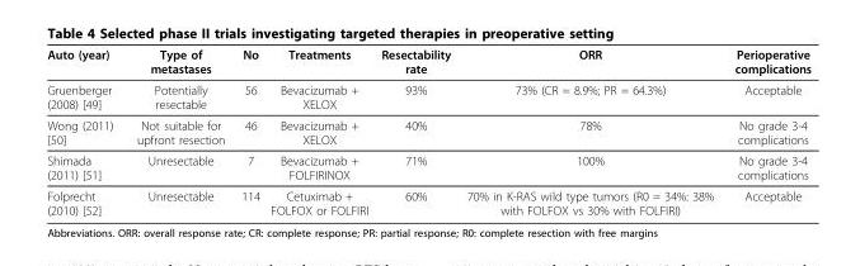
<table><thead><tr><td>Auto (year)</td><td>Type of metastases</td><td>No</td><td>Treatments</td><td>Resectability rate</td><td>ORR</td><td>Perioperative complications</td></tr></thead><tbody><tr><td>Gruenberger (2008) [49]</td><td>Potentially resectable</td><td>56</td><td>Bevacizumab + XELOX</td><td>93%</td><td>73% (CR = 8.9%; PR = 64.3%)</td><td>Acceptable</td></tr><tr><td>Wong (2011) [50]</td><td>Not suitable for upfront resection</td><td>46</td><td>Bevacizumab + XELOX</td><td>40%</td><td>78%</td><td>No grade 3-4 complications</td></tr><tr><td>Shimada (2011) [51]</td><td>Unresectable</td><td>7</td><td>Bevacizumab + FOLFIRINOX</td><td>71%</td><td>100%</td><td>No grade 3-4 complications</td></tr><tr><td>Folprecht (2010) [52]</td><td>Unresectable</td><td>114</td><td>Cetuximab + FOLFOX or FOLFIRI</td><td>60%</td><td>70% in K-RAS wild type tumors (R0 = 34%: 38% with FOLFOX vs 30% with FOLFIRI)</td><td>Acceptable</td></tr></tbody></table>